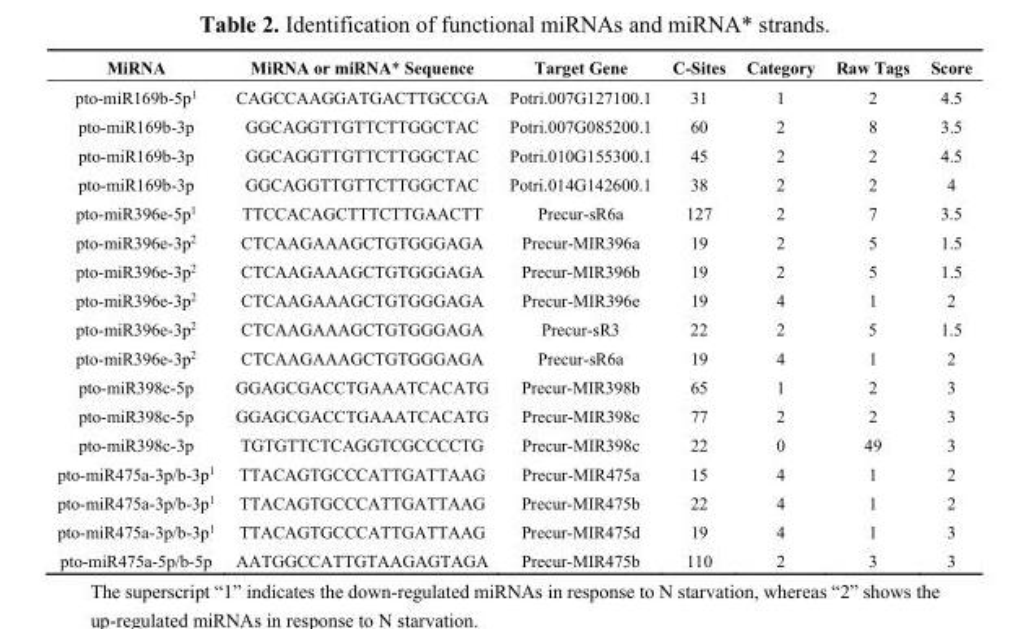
<table><thead><tr><td>MiRNA</td><td>MiRNA or miRNA* Sequence</td><td>Target Gene</td><td>C-Sites</td><td>Category</td><td>Raw Tags</td><td>Score</td></tr></thead><tbody><tr><td>pto-miR169b-5p<sup>1</sup></td><td>CAGCCAAGGATGACTTGCCGA</td><td>Potri.007G127100.1</td><td>31</td><td>1</td><td>2</td><td>4.5</td></tr><tr><td>pto-miR169b-3p</td><td>GGCAGGTTGTTCTTGGCTAC</td><td>Potri.007G085200.1</td><td>60</td><td>2</td><td>8</td><td>3.5</td></tr><tr><td>pto-miR169b-3p</td><td>GGCAGGTTGTTCTTGGCTAC</td><td>Potri.010G155300.1</td><td>45</td><td>2</td><td>2</td><td>4.5</td></tr><tr><td>pto-miR169b-3p</td><td>GGCAGGTTGTTCTTGGCTAC</td><td>Potri.014G142600.1</td><td>38</td><td>2</td><td>2</td><td>4</td></tr><tr><td>pto-miR396e-5p<sup>1</sup></td><td>TTCCACAGCTTTCTTGAACTT</td><td>Precur-sR6a</td><td>127</td><td>2</td><td>7</td><td>3.5</td></tr><tr><td>pto-miR396e-3p<sup>2</sup></td><td>CTCAAGAAAGCTGTGGGAGA</td><td>Precur-MIR396a</td><td>19</td><td>2</td><td>5</td><td>1.5</td></tr><tr><td>pto-miR396e-3p<sup>2</sup></td><td>CTCAAGAAAGCTGTGGGAGA</td><td>Precur-MIR396b</td><td>19</td><td>2</td><td>5</td><td>1.5</td></tr><tr><td>pto-miR396e-3p<sup>2</sup></td><td>CTCAAGAAAGCTGTGGGAGA</td><td>Precur-MIR396e</td><td>19</td><td>4</td><td>1</td><td>2</td></tr><tr><td>pto-miR396e-3p<sup>2</sup></td><td>CTCAAGAAAGCTGTGGGAGA</td><td>Precur-sR3</td><td>22</td><td>2</td><td>5</td><td>1.5</td></tr><tr><td>pto-miR396e-3p<sup>2</sup></td><td>CTCAAGAAAGCTGTGGGAGA</td><td>Precur-sR6a</td><td>19</td><td>4</td><td>1</td><td>2</td></tr><tr><td>pto-miR398c-5p</td><td>GGAGCGACCTGAAATCACATG</td><td>Precur-MIR398b</td><td>65</td><td>1</td><td>2</td><td>3</td></tr><tr><td>pto-miR398c-5p</td><td>GGAGCGACCTGAAATCACATG</td><td>Precur-MIR398c</td><td>77</td><td>2</td><td>2</td><td>3</td></tr><tr><td>pto-miR398c-3p</td><td>TGTGTTCTCAGGTCGCCCCTG</td><td>Precur-MIR398c</td><td>22</td><td>0</td><td>49</td><td>3</td></tr><tr><td>pto-miR475a-3p/b-3p<sup>1</sup></td><td>TTACAGTGCCCATTGATTAAG</td><td>Precur-MIR475a</td><td>15</td><td>4</td><td>1</td><td>2</td></tr><tr><td>pto-miR475a-3p/b-3p<sup>1</sup></td><td>TTACAGTGCCCATTGATTAAG</td><td>Precur-MIR475b</td><td>22</td><td>4</td><td>1</td><td>2</td></tr><tr><td>pto-miR475a-3p/b-3p<sup>1</sup></td><td>TTACAGTGCCCATTGATTAAG</td><td>Precur-MIR475d</td><td>19</td><td>4</td><td>1</td><td>3</td></tr><tr><td>pto-miR475a-5p/b-5p</td><td>AATGGCCATTGTAAGAGTAGA</td><td>Precur-MIR475b</td><td>110</td><td>2</td><td>3</td><td>3</td></tr></tbody></table>